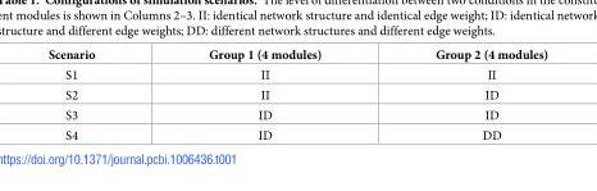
<table><thead><tr><td>Scenario</td><td>Group 1 (4 modules)</td><td>Group 2 (4 modules)</td></tr></thead><tbody><tr><td>S1</td><td>II</td><td>II</td></tr><tr><td>S2</td><td>II</td><td>ID</td></tr><tr><td>S3</td><td>ID</td><td>ID</td></tr><tr><td>S4</td><td>ID</td><td>DD</td></tr></tbody></table>